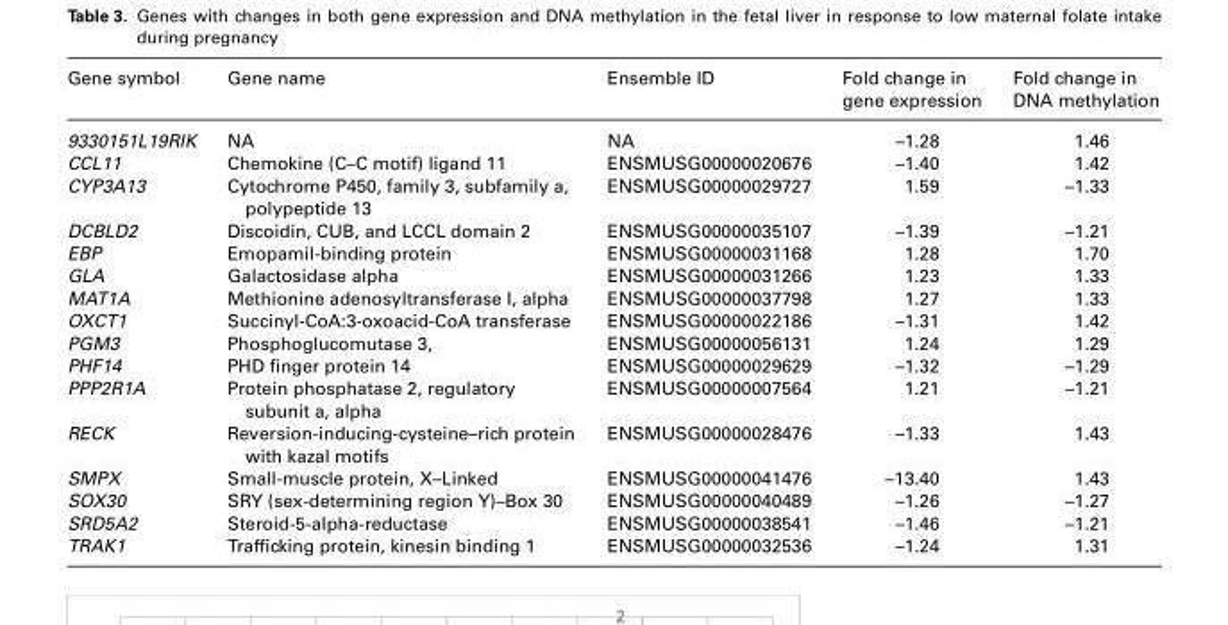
<table><thead><tr><td>Gene symbol</td><td>Gene name</td><td>Ensemble ID</td><td>Fold change in gene expression</td><td>Fold change in DNA methylation</td></tr></thead><tbody><tr><td>9330151L19RIK</td><td>NA</td><td>NA</td><td>–1.28</td><td>1.46</td></tr><tr><td>CCL11</td><td>Chemokine (C–C motif) ligand 11</td><td>ENSMUSG00000020676</td><td>–1.40</td><td>1.42</td></tr><tr><td>CYP3A13</td><td>Cytochrome P450, family 3, subfamily a, polypeptide 13</td><td>ENSMUSG00000029727</td><td>1.59</td><td>–1.33</td></tr><tr><td>DCBLD2</td><td>Discoidin, CUB, and LCCL domain 2</td><td>ENSMUSG00000035107</td><td>–1.39</td><td>–1.21</td></tr><tr><td>EBP</td><td>Emopamil-binding protein</td><td>ENSMUSG00000031168</td><td>1.28</td><td>1.70</td></tr><tr><td>GLA</td><td>Galactosidase alpha</td><td>ENSMUSG00000031266</td><td>1.23</td><td>1.33</td></tr><tr><td>MAT1A</td><td>Methionine adenosyltransferase I, alpha</td><td>ENSMUSG00000037798</td><td>1.27</td><td>1.33</td></tr><tr><td>OXCT1</td><td>Succinyl-CoA:3-oxoacid-CoA transferase</td><td>ENSMUSG00000022186</td><td>–1.31</td><td>1.42</td></tr><tr><td>PGM3</td><td>Phosphoglucomutase 3,</td><td>ENSMUSG00000056131</td><td>1.24</td><td>1.29</td></tr><tr><td>PHF14</td><td>PHD finger protein 14</td><td>ENSMUSG00000029629</td><td>–1.32</td><td>–1.29</td></tr><tr><td>PPP2R1A</td><td>Protein phosphatase 2, regulatory subunit a, alpha</td><td>ENSMUSG00000007564</td><td>1.21</td><td>–1.21</td></tr><tr><td>RECK</td><td>Reversion-inducing-cysteine–rich protein with kazal motifs</td><td>ENSMUSG00000028476</td><td>–1.33</td><td>1.43</td></tr><tr><td>SMPX</td><td>Small-muscle protein, X–Linked</td><td>ENSMUSG00000041476</td><td>–13.40</td><td>1.43</td></tr><tr><td>SOX30</td><td>SRY (sex-determining region Y)–Box 30</td><td>ENSMUSG00000040489</td><td>–1.26</td><td>–1.27</td></tr><tr><td>SRD5A2</td><td>Steroid-5-alpha-reductase</td><td>ENSMUSG00000038541</td><td>–1.46</td><td>–1.21</td></tr><tr><td>TRAK1</td><td>Trafficking protein, kinesin binding 1</td><td>ENSMUSG00000032536</td><td>–1.24</td><td>1.31</td></tr></tbody></table>